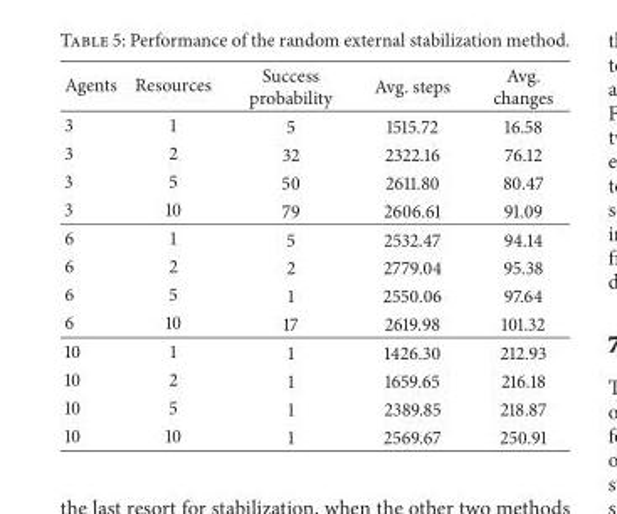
<table><thead><tr><td>Agents</td><td>Resources</td><td>Success probability</td><td>Avg. steps</td><td>Avg. changes</td></tr></thead><tbody><tr><td>3</td><td>1</td><td>5</td><td>1515.72</td><td>16.58</td></tr><tr><td>3</td><td>2</td><td>32</td><td>2322.16</td><td>76.12</td></tr><tr><td>3</td><td>5</td><td>50</td><td>2611.80</td><td>80.47</td></tr><tr><td>3</td><td>10</td><td>79</td><td>2606.61</td><td>91.09</td></tr><tr><td>6</td><td>1</td><td>5</td><td>2532.47</td><td>94.14</td></tr><tr><td>6</td><td>2</td><td>2</td><td>2779.04</td><td>95.38</td></tr><tr><td>6</td><td>5</td><td>1</td><td>2550.06</td><td>97.64</td></tr><tr><td>6</td><td>10</td><td>17</td><td>2619.98</td><td>101.32</td></tr><tr><td>10</td><td>1</td><td>1</td><td>1426.30</td><td>212.93</td></tr><tr><td>10</td><td>2</td><td>1</td><td>1659.65</td><td>216.18</td></tr><tr><td>10</td><td>5</td><td>1</td><td>2389.85</td><td>218.87</td></tr><tr><td>10</td><td>10</td><td>1</td><td>2569.67</td><td>250.91</td></tr></tbody></table>